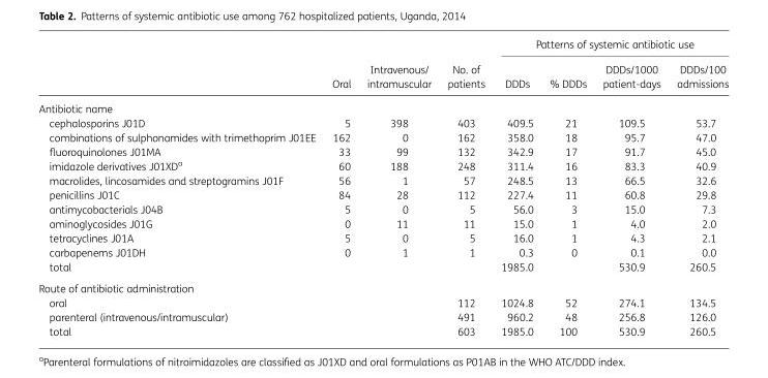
<table><thead><tr><td rowspan="2"></td><td rowspan="2">Oral</td><td rowspan="2">Intravenous/ intramuscular</td><td rowspan="2">No. of patients</td><td colspan="4">Patterns of systemic antibiotic use</td></tr><tr><td>DDDs</td><td>% DDDs</td><td>DDDs/1000 patient-days</td><td>DDDs/100 admissions</td></tr></thead><tbody><tr><td colspan="8">Antibiotic name</td></tr><tr><td>cephalosporins J01D</td><td>5</td><td>398</td><td>403</td><td>409.5</td><td>21</td><td>109.5</td><td>53.7</td></tr><tr><td>combinations of sulphonamides with trimethoprim J01EE</td><td>162</td><td>0</td><td>162</td><td>358.0</td><td>18</td><td>95.7</td><td>47.0</td></tr><tr><td>fluoroquinolones J01MA</td><td>33</td><td>99</td><td>132</td><td>342.9</td><td>17</td><td>91.7</td><td>45.0</td></tr><tr><td>imidazole derivatives J01XD<sup>a</sup></td><td>60</td><td>188</td><td>248</td><td>311.4</td><td>16</td><td>83.3</td><td>40.9</td></tr><tr><td>macrolides, lincosamides and streptogramins J01F</td><td>56</td><td>1</td><td>57</td><td>248.5</td><td>13</td><td>66.5</td><td>32.6</td></tr><tr><td>penicillins J01C</td><td>84</td><td>28</td><td>112</td><td>227.4</td><td>11</td><td>60.8</td><td>29.8</td></tr><tr><td>antimycobacterials J04B</td><td>5</td><td>0</td><td>5</td><td>56.0</td><td>3</td><td>15.0</td><td>7.3</td></tr><tr><td>aminoglycosides J01G</td><td>0</td><td>11</td><td>11</td><td>15.0</td><td>1</td><td>4.0</td><td>2.0</td></tr><tr><td>tetracyclines J01A</td><td>5</td><td>0</td><td>5</td><td>16.0</td><td>1</td><td>4.3</td><td>2.1</td></tr><tr><td>carbapenems J01DH</td><td>0</td><td>1</td><td>1</td><td>0.3</td><td>0</td><td>0.1</td><td>0.0</td></tr><tr><td>total</td><td></td><td></td><td></td><td>1985.0</td><td></td><td>530.9</td><td>260.5</td></tr><tr><td colspan="8">Route of antibiotic administration</td></tr><tr><td>oral</td><td></td><td></td><td>112</td><td>1024.8</td><td>52</td><td>274.1</td><td>134.5</td></tr><tr><td>parenteral (intravenous/intramuscular)</td><td></td><td></td><td>491</td><td>960.2</td><td>48</td><td>256.8</td><td>126.0</td></tr><tr><td>total</td><td></td><td></td><td>603</td><td>1985.0</td><td>100</td><td>530.9</td><td>260.5</td></tr></tbody></table>